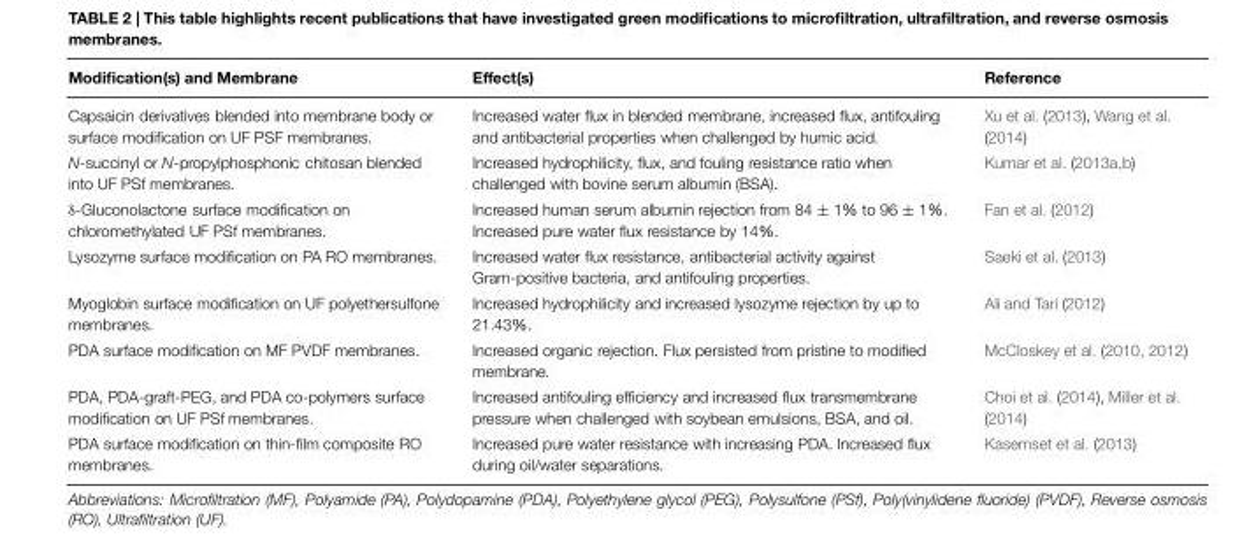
<table><thead><tr><td>Modification(s) and Membrane</td><td>Effect(s)</td><td>Reference</td></tr></thead><tbody><tr><td>Capsaicin derivatives blended into membrane body or surface modification on UF PSF membranes.</td><td>Increased water flux in blended membrane, increased flux, antifouling and antibacterial properties when challenged by humic acid.</td><td>Xu et al. (2013), Wang et al. (2014)</td></tr><tr><td>N-succinyl or N-propylphosphonic chitosan blended into UF PSf membranes.</td><td>Increased hydrophilicity, flux, and fouling resistance ratio when challenged with bovine serum albumin (BSA).</td><td>Kumar et al. (2013a,b)</td></tr><tr><td>δ-Gluconolactone surface modification on chloromethylated UF PSf membranes.</td><td>Increased human serum albumin rejection from 84 ± 1% to 96 ± 1%. Increased pure water flux resistance by 14%.</td><td>Fan et al. (2012)</td></tr><tr><td>Lysozyme surface modification on PA RO membranes.</td><td>Increased water flux resistance, antibacterial activity against Gram-positive bacteria, and antifouling properties.</td><td>Saeki et al. (2013)</td></tr><tr><td>Myoglobin surface modification on UF polyethersulfone membranes.</td><td>Increased hydrophilicity and increased lysozyme rejection by up to 21.43%.</td><td>Ali and Tari (2012)</td></tr><tr><td>PDA surface modification on MF PVDF membranes.</td><td>Increased organic rejection. Flux persisted from pristine to modified membrane.</td><td>McCloskey et al. (2010, 2012)</td></tr><tr><td>PDA, PDA-graft-PEG, and PDA co-polymers surface modification on UF PSf membranes.</td><td>Increased antifouling efficiency and increased flux transmembrane pressure when challenged with soybean emulsions, BSA, and oil.</td><td>Choi et al. (2014), Miller et al. (2014)</td></tr><tr><td>PDA surface modification on thin-film composite RO membranes.</td><td>Increased pure water resistance with increasing PDA. Increased flux during oil/water separations.</td><td>Kasemset et al. (2013)</td></tr></tbody></table>